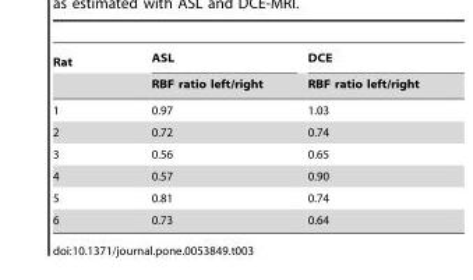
<table><thead><tr><td rowspan="2">Rat</td><td rowspan="2">ASL RBF ratio left/right</td><td rowspan="2">DCE RBF ratio left/right</td></tr><tr></tr></thead><tbody><tr><td>1</td><td>0.97</td><td>1.03</td></tr><tr><td>2</td><td>0.72</td><td>0.74</td></tr><tr><td>3</td><td>0.56</td><td>0.65</td></tr><tr><td>4</td><td>0.57</td><td>0.90</td></tr><tr><td>5</td><td>0.81</td><td>0.74</td></tr><tr><td>6</td><td>0.73</td><td>0.64</td></tr></tbody></table>